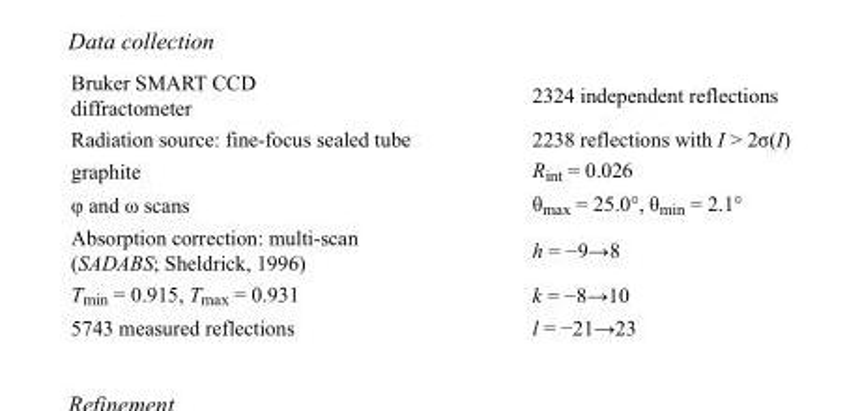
<table><tbody><tr><td>Bruker SMART CCD diffractometer</td><td>2324 independent reflections</td></tr><tr><td>Radiation source: fine-focus sealed tube</td><td>2238 reflections with I &gt; 2σ(I)</td></tr><tr><td>graphite</td><td>R<sub>int</sub> = 0.026</td></tr><tr><td>φ and ω scans</td><td>θ<sub>max</sub> = 25.0°, θ<sub>min</sub> = 2.1°</td></tr><tr><td>Absorption correction: multi-scan (SADABS; Sheldrick, 1996)</td><td>h = −9→8</td></tr><tr><td>T<sub>min</sub> = 0.915, T<sub>max</sub> = 0.931</td><td>k = −8→10</td></tr><tr><td>5743 measured reflections</td><td>l = −21→23</td></tr></tbody></table>